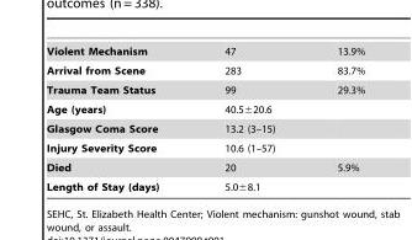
<table><tbody><tr><td>Violent Mechanism</td><td>47</td><td>13.9%</td></tr><tr><td>Arrival from Scene</td><td>283</td><td>83.7%</td></tr><tr><td>Trauma Team Status</td><td>99</td><td>29.3%</td></tr><tr><td>Age (years)</td><td>40.5±20.6</td><td></td></tr><tr><td>Glasgow Coma Score</td><td>13.2 (3–15)</td><td></td></tr><tr><td>Injury Severity Score</td><td>10.6 (1–57)</td><td></td></tr><tr><td>Died</td><td>20</td><td>5.9%</td></tr><tr><td>Length of Stay (days)</td><td>5.0±8.1</td><td></td></tr></tbody></table>